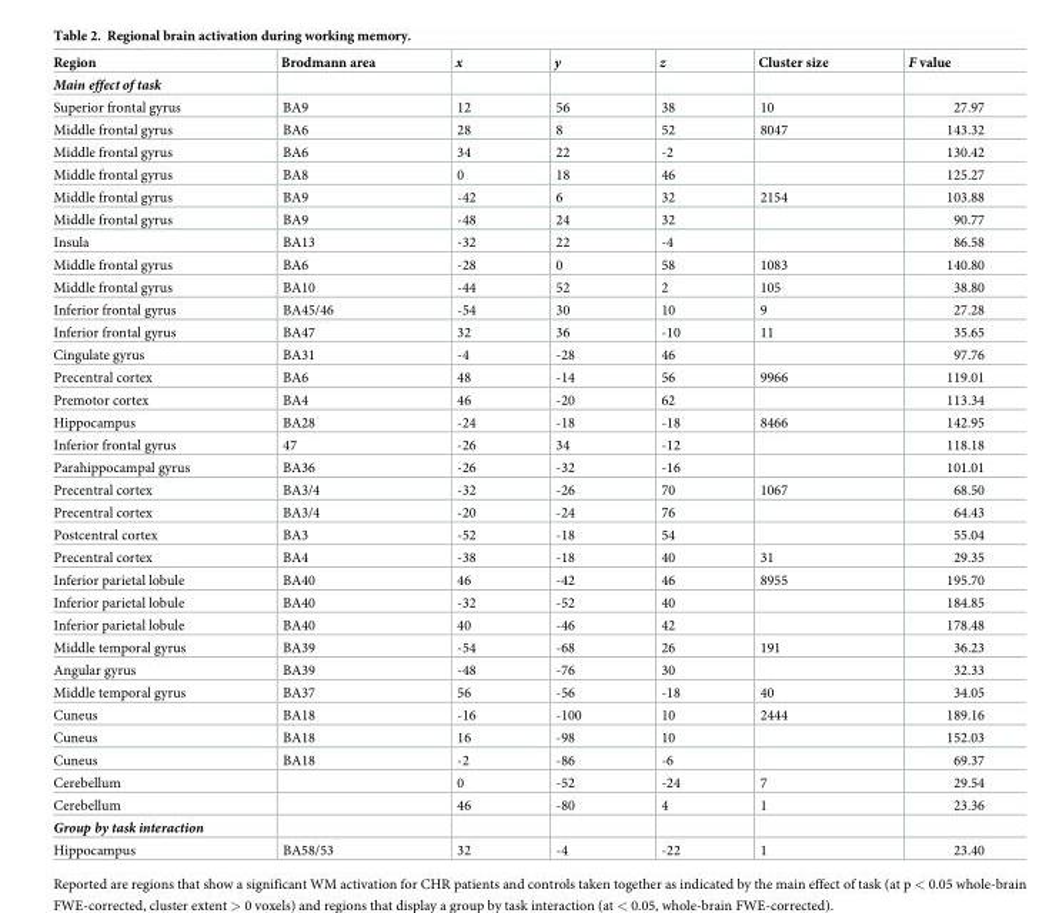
<table><thead><tr><td>Region</td><td>Brodmann area</td><td>x</td><td>y</td><td>z</td><td>Cluster size</td><td>F value</td></tr></thead><tbody><tr><td colspan="7">Main effect of task</td></tr><tr><td>Superior frontal gyrus</td><td>BA9</td><td>12</td><td>56</td><td>38</td><td>10</td><td>27.97</td></tr><tr><td>Middle frontal gyrus</td><td>BA6</td><td>28</td><td>8</td><td>52</td><td>8047</td><td>143.32</td></tr><tr><td>Middle frontal gyrus</td><td>BA6</td><td>34</td><td>22</td><td>-2</td><td></td><td>130.42</td></tr><tr><td>Middle frontal gyrus</td><td>BA8</td><td>0</td><td>18</td><td>46</td><td></td><td>125.27</td></tr><tr><td>Middle frontal gyrus</td><td>BA9</td><td>-42</td><td>6</td><td>32</td><td>2154</td><td>103.88</td></tr><tr><td>Middle frontal gyrus</td><td>BA9</td><td>-48</td><td>24</td><td>32</td><td></td><td>90.77</td></tr><tr><td>Insula</td><td>BA13</td><td>-32</td><td>22</td><td>-4</td><td></td><td>86.58</td></tr><tr><td>Middle frontal gyrus</td><td>BA6</td><td>-28</td><td>0</td><td>58</td><td>1083</td><td>140.80</td></tr><tr><td>Middle frontal gyrus</td><td>BA10</td><td>-44</td><td>52</td><td>2</td><td>105</td><td>38.80</td></tr><tr><td>Inferior frontal gyrus</td><td>BA45/46</td><td>-54</td><td>30</td><td>10</td><td>9</td><td>27.28</td></tr><tr><td>Inferior frontal gyrus</td><td>BA47</td><td>32</td><td>36</td><td>-10</td><td>11</td><td>35.65</td></tr><tr><td>Cingulate gyrus</td><td>BA31</td><td>-4</td><td>-28</td><td>46</td><td></td><td>97.76</td></tr><tr><td>Precentral cortex</td><td>BA6</td><td>48</td><td>-14</td><td>56</td><td>9966</td><td>119.01</td></tr><tr><td>Premotor cortex</td><td>BA4</td><td>46</td><td>-20</td><td>62</td><td></td><td>113.34</td></tr><tr><td>Hippocampus</td><td>BA28</td><td>-24</td><td>-18</td><td>-18</td><td>8466</td><td>142.95</td></tr><tr><td>Inferior frontal gyrus</td><td>47</td><td>-26</td><td>34</td><td>-12</td><td></td><td>118.18</td></tr><tr><td>Parahippocampal gyrus</td><td>BA36</td><td>-26</td><td>-32</td><td>-16</td><td></td><td>101.01</td></tr><tr><td>Precentral cortex</td><td>BA3/4</td><td>-32</td><td>-26</td><td>70</td><td>1067</td><td>68.50</td></tr><tr><td>Precentral cortex</td><td>BA3/4</td><td>-20</td><td>-24</td><td>76</td><td></td><td>64.43</td></tr><tr><td>Postcentral cortex</td><td>BA3</td><td>-52</td><td>-18</td><td>54</td><td></td><td>55.04</td></tr><tr><td>Precentral cortex</td><td>BA4</td><td>-38</td><td>-18</td><td>40</td><td>31</td><td>29.35</td></tr><tr><td>Inferior parietal lobule</td><td>BA40</td><td>46</td><td>-42</td><td>46</td><td>8955</td><td>195.70</td></tr><tr><td>Inferior parietal lobule</td><td>BA40</td><td>-32</td><td>-52</td><td>40</td><td></td><td>184.85</td></tr><tr><td>Inferior parietal lobule</td><td>BA40</td><td>40</td><td>-46</td><td>42</td><td></td><td>178.48</td></tr><tr><td>Middle temporal gyrus</td><td>BA39</td><td>-54</td><td>-68</td><td>26</td><td>191</td><td>36.23</td></tr><tr><td>Angular gyrus</td><td>BA39</td><td>-48</td><td>-76</td><td>30</td><td></td><td>32.33</td></tr><tr><td>Middle temporal gyrus</td><td>BA37</td><td>56</td><td>-56</td><td>-18</td><td>40</td><td>34.05</td></tr><tr><td>Cuneus</td><td>BA18</td><td>-16</td><td>-100</td><td>10</td><td>2444</td><td>189.16</td></tr><tr><td>Cuneus</td><td>BA18</td><td>16</td><td>-98</td><td>10</td><td></td><td>152.03</td></tr><tr><td>Cuneus</td><td>BA18</td><td>-2</td><td>-86</td><td>-6</td><td></td><td>69.37</td></tr><tr><td>Cerebellum</td><td></td><td>0</td><td>-52</td><td>-24</td><td>7</td><td>29.54</td></tr><tr><td>Cerebellum</td><td></td><td>46</td><td>-80</td><td>4</td><td>1</td><td>23.36</td></tr><tr><td colspan="7">Group by task interaction</td></tr><tr><td>Hippocampus</td><td>BA58/53</td><td>32</td><td>-4</td><td>-22</td><td>1</td><td>23.40</td></tr></tbody></table>